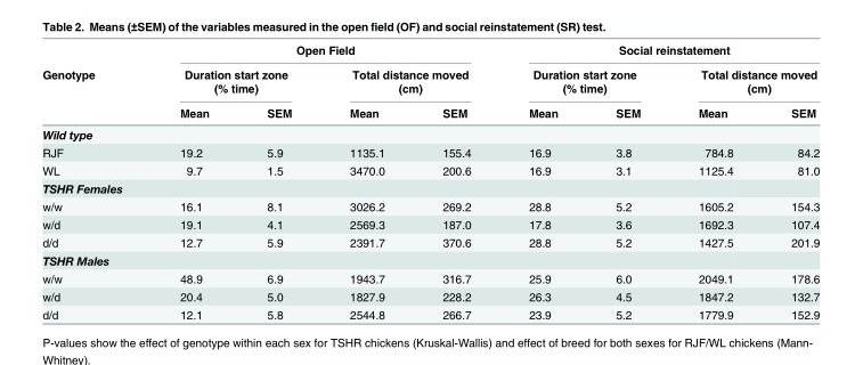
<table><thead><tr><td rowspan="3">Genotype</td><td colspan="4">Open Field</td><td colspan="4">Social reinstatement</td></tr><tr><td colspan="2">Duration start zone (% time)</td><td colspan="2">Total distance moved (cm)</td><td colspan="2">Duration start zone (% time)</td><td colspan="2">Total distance moved (cm)</td></tr><tr><td>Mean</td><td>SEM</td><td>Mean</td><td>SEM</td><td>Mean</td><td>SEM</td><td>Mean</td><td>SEM</td></tr></thead><tbody><tr><td colspan="9">Wild type</td></tr><tr><td>RJF</td><td>19.2</td><td>5.9</td><td>1135.1</td><td>155.4</td><td>16.9</td><td>3.8</td><td>784.8</td><td>84.2</td></tr><tr><td>WL</td><td>9.7</td><td>1.5</td><td>3470.0</td><td>200.6</td><td>16.9</td><td>3.1</td><td>1125.4</td><td>81.0</td></tr><tr><td colspan="9">TSHR Females</td></tr><tr><td>w/w</td><td>16.1</td><td>8.1</td><td>3026.2</td><td>269.2</td><td>28.8</td><td>5.2</td><td>1605.2</td><td>154.3</td></tr><tr><td>w/d</td><td>19.1</td><td>4.1</td><td>2569.3</td><td>187.0</td><td>17.8</td><td>3.6</td><td>1692.3</td><td>107.4</td></tr><tr><td>d/d</td><td>12.7</td><td>5.9</td><td>2391.7</td><td>370.6</td><td>28.8</td><td>5.2</td><td>1427.5</td><td>201.9</td></tr><tr><td colspan="9">TSHR Males</td></tr><tr><td>w/w</td><td>48.9</td><td>6.9</td><td>1943.7</td><td>316.7</td><td>25.9</td><td>6.0</td><td>2049.1</td><td>178.6</td></tr><tr><td>w/d</td><td>20.4</td><td>5.0</td><td>1827.9</td><td>228.2</td><td>26.3</td><td>4.5</td><td>1847.2</td><td>132.7</td></tr><tr><td>d/d</td><td>12.1</td><td>5.8</td><td>2544.8</td><td>266.7</td><td>23.9</td><td>5.2</td><td>1779.9</td><td>152.9</td></tr></tbody></table>